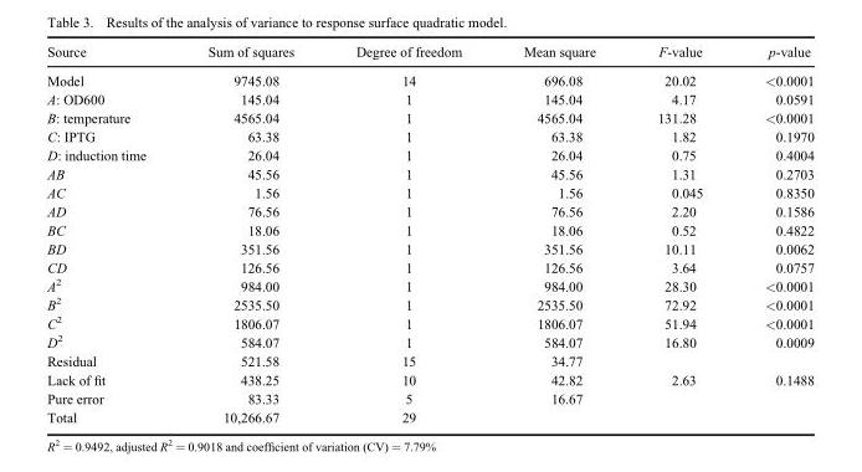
<table><thead><tr><td>Source</td><td>Sum of squares</td><td>Degree of freedom</td><td>Mean square</td><td>F-value</td><td>p-value</td></tr></thead><tbody><tr><td>Model</td><td>9745.08</td><td>14</td><td>696.08</td><td>20.02</td><td>&lt;0.0001</td></tr><tr><td>A: OD600</td><td>145.04</td><td>1</td><td>145.04</td><td>4.17</td><td>0.0591</td></tr><tr><td>B: temperature</td><td>4565.04</td><td>1</td><td>4565.04</td><td>131.28</td><td>&lt;0.0001</td></tr><tr><td>C: IPTG</td><td>63.38</td><td>1</td><td>63.38</td><td>1.82</td><td>0.1970</td></tr><tr><td>D: induction time</td><td>26.04</td><td>1</td><td>26.04</td><td>0.75</td><td>0.4004</td></tr><tr><td>AB</td><td>45.56</td><td>1</td><td>45.56</td><td>1.31</td><td>0.2703</td></tr><tr><td>AC</td><td>1.56</td><td>1</td><td>1.56</td><td>0.045</td><td>0.8350</td></tr><tr><td>AD</td><td>76.56</td><td>1</td><td>76.56</td><td>2.20</td><td>0.1586</td></tr><tr><td>BC</td><td>18.06</td><td>1</td><td>18.06</td><td>0.52</td><td>0.4822</td></tr><tr><td>BD</td><td>351.56</td><td>1</td><td>351.56</td><td>10.11</td><td>0.0062</td></tr><tr><td>CD</td><td>126.56</td><td>1</td><td>126.56</td><td>3.64</td><td>0.0757</td></tr><tr><td>A<sup>2</sup></td><td>984.00</td><td>1</td><td>984.00</td><td>28.30</td><td>&lt;0.0001</td></tr><tr><td>B<sup>2</sup></td><td>2535.50</td><td>1</td><td>2535.50</td><td>72.92</td><td>&lt;0.0001</td></tr><tr><td>C<sup>2</sup></td><td>1806.07</td><td>1</td><td>1806.07</td><td>51.94</td><td>&lt;0.0001</td></tr><tr><td>D<sup>2</sup></td><td>584.07</td><td>1</td><td>584.07</td><td>16.80</td><td>0.0009</td></tr><tr><td>Residual</td><td>521.58</td><td>15</td><td>34.77</td><td></td><td></td></tr><tr><td>Lack of fit</td><td>438.25</td><td>10</td><td>42.82</td><td>2.63</td><td>0.1488</td></tr><tr><td>Pure error</td><td>83.33</td><td>5</td><td>16.67</td><td></td><td></td></tr><tr><td>Total</td><td>10,266.67</td><td>29</td><td></td><td></td><td></td></tr></tbody></table>